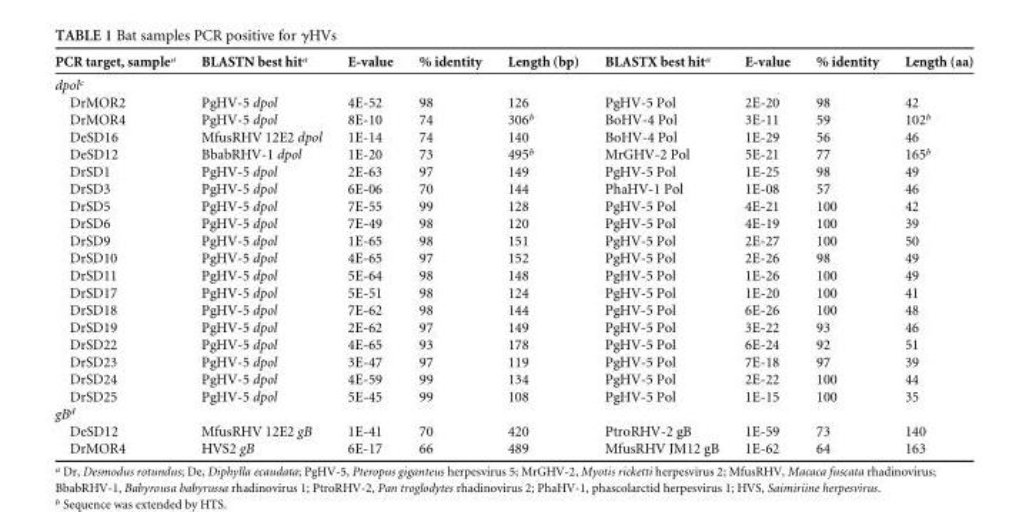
<table><thead><tr><td>PCR target, sample<sup>a</sup></td><td>BLASTN best hit<sup>a</sup></td><td>E-value</td><td>% identity</td><td>Length (bp)</td><td>BLASTX best hit<sup>a</sup></td><td>E-value</td><td>% identity</td><td>Length (aa)</td></tr></thead><tbody><tr><td colspan="9">dpol<sup>c</sup></td></tr><tr><td>DrMOR2</td><td>PgHV-5 dpol</td><td>4E-52</td><td>98</td><td>126</td><td>PgHV-5 Pol</td><td>2E-20</td><td>98</td><td>42</td></tr><tr><td>DrMOR4</td><td>PgHV-5 dpol</td><td>8E-10</td><td>74</td><td>306<sup>b</sup></td><td>BoHV-4 Pol</td><td>3E-11</td><td>59</td><td>102<sup>b</sup></td></tr><tr><td>DeSD16</td><td>MfusRHV 12E2 dpol</td><td>1E-14</td><td>74</td><td>140</td><td>BoHV-4 Pol</td><td>1E-29</td><td>56</td><td>46</td></tr><tr><td>DeSD12</td><td>BbabRHV-1 dpol</td><td>1E-20</td><td>73</td><td>495<sup>b</sup></td><td>MrGHV-2 Pol</td><td>5E-21</td><td>77</td><td>165<sup>b</sup></td></tr><tr><td>DrSD1</td><td>PgHV-5 dpol</td><td>2E-63</td><td>97</td><td>149</td><td>PgHV-5 Pol</td><td>1E-25</td><td>98</td><td>49</td></tr><tr><td>DrSD3</td><td>PgHV-5 dpol</td><td>6E-06</td><td>70</td><td>144</td><td>PhaHV-1 Pol</td><td>1E-08</td><td>57</td><td>46</td></tr><tr><td>DrSD5</td><td>PgHV-5 dpol</td><td>7E-55</td><td>99</td><td>128</td><td>PgHV-5 Pol</td><td>4E-21</td><td>100</td><td>42</td></tr><tr><td>DrSD6</td><td>PgHV-5 dpol</td><td>7E-49</td><td>98</td><td>120</td><td>PgHV-5 Pol</td><td>4E-19</td><td>100</td><td>39</td></tr><tr><td>DrSD9</td><td>PgHV-5 dpol</td><td>1E-65</td><td>98</td><td>151</td><td>PgHV-5 Pol</td><td>2E-27</td><td>100</td><td>50</td></tr><tr><td>DrSD10</td><td>PgHV-5 dpol</td><td>4E-65</td><td>97</td><td>152</td><td>PgHV-5 Pol</td><td>2E-26</td><td>98</td><td>49</td></tr><tr><td>DrSD11</td><td>PgHV-5 dpol</td><td>5E-64</td><td>98</td><td>148</td><td>PgHV-5 Pol</td><td>1E-26</td><td>100</td><td>49</td></tr><tr><td>DrSD17</td><td>PgHV-5 dpol</td><td>5E-51</td><td>98</td><td>124</td><td>PgHV-5 Pol</td><td>1E-20</td><td>100</td><td>41</td></tr><tr><td>DrSD18</td><td>PgHV-5 dpol</td><td>7E-62</td><td>98</td><td>144</td><td>PgHV-5 Pol</td><td>6E-26</td><td>100</td><td>48</td></tr><tr><td>DrSD19</td><td>PgHV-5 dpol</td><td>2E-62</td><td>97</td><td>149</td><td>PgHV-5 Pol</td><td>3E-22</td><td>93</td><td>46</td></tr><tr><td>DrSD22</td><td>PgHV-5 dpol</td><td>4E-65</td><td>93</td><td>178</td><td>PgHV-5 Pol</td><td>6E-24</td><td>92</td><td>51</td></tr><tr><td>DrSD23</td><td>PgHV-5 dpol</td><td>3E-47</td><td>97</td><td>119</td><td>PgHV-5 Pol</td><td>7E-18</td><td>97</td><td>39</td></tr><tr><td>DrSD24</td><td>PgHV-5 dpol</td><td>4E-59</td><td>99</td><td>134</td><td>PgHV-5 Pol</td><td>2E-22</td><td>100</td><td>44</td></tr><tr><td>DrSD25</td><td>PgHV-5 dpol</td><td>5E-45</td><td>99</td><td>108</td><td>PgHV-5 Pol</td><td>1E-15</td><td>100</td><td>35</td></tr><tr><td colspan="9">gB<sup>d</sup></td></tr><tr><td>DeSD12</td><td>MfusRHV 12E2 gB</td><td>1E-41</td><td>70</td><td>420</td><td>PtroRHV-2 gB</td><td>1E-59</td><td>73</td><td>140</td></tr><tr><td>DrMOR4</td><td>HVS2 gB</td><td>6E-17</td><td>66</td><td>489</td><td>MfusRHV JM12 gB</td><td>1E-62</td><td>64</td><td>163</td></tr></tbody></table>